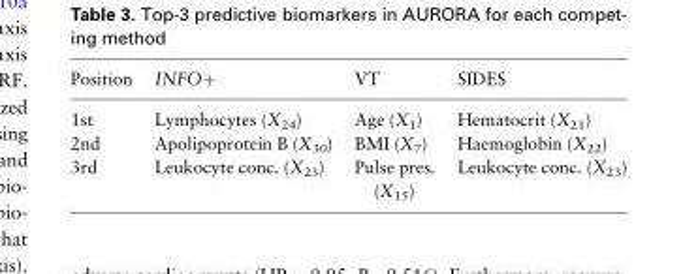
<table><thead><tr><td>Position</td><td>INFO+</td><td>VT</td><td>SIDES</td></tr></thead><tbody><tr><td>1st</td><td>Lymphocytes (X<sub>24</sub>)</td><td>Age (X<sub>1</sub>)</td><td>Hematocrit (X<sub>21</sub>)</td></tr><tr><td>2nd</td><td>Apolipoprotein B (X<sub>30</sub>)</td><td>BMI (X<sub>7</sub>)</td><td>Haemoglobin (X<sub>22</sub>)</td></tr><tr><td>3rd</td><td>Leukocyte conc. (X<sub>23</sub>)</td><td>Pulse pres. (X<sub>15</sub>)</td><td>Leukocyte conc. (X<sub>23</sub>)</td></tr></tbody></table>